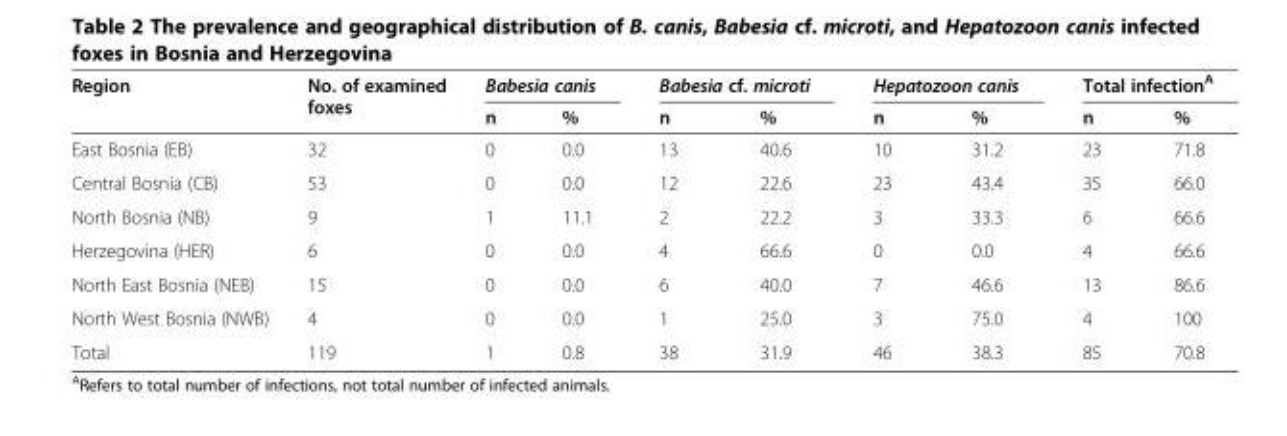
<table><thead><tr><td rowspan="2">Region</td><td rowspan="2">No. of examined foxes</td><td colspan="2">Babesia canis</td><td colspan="2">Babesia cf. microti</td><td colspan="2">Hepatozoon canis</td><td colspan="2">Total infection<sup>A</sup></td></tr><tr><td>n</td><td>%</td><td>n</td><td>%</td><td>n</td><td>%</td><td>n</td><td>%</td></tr></thead><tbody><tr><td>East Bosnia (EB)</td><td>32</td><td>0</td><td>0.0</td><td>13</td><td>40.6</td><td>10</td><td>31.2</td><td>23</td><td>71.8</td></tr><tr><td>Central Bosnia (CB)</td><td>53</td><td>0</td><td>0.0</td><td>12</td><td>22.6</td><td>23</td><td>43.4</td><td>35</td><td>66.0</td></tr><tr><td>North Bosnia (NB)</td><td>9</td><td>1</td><td>11.1</td><td>2</td><td>22.2</td><td>3</td><td>33.3</td><td>6</td><td>66.6</td></tr><tr><td>Herzegovina (HER)</td><td>6</td><td>0</td><td>0.0</td><td>4</td><td>66.6</td><td>0</td><td>0.0</td><td>4</td><td>66.6</td></tr><tr><td>North East Bosnia (NEB)</td><td>15</td><td>0</td><td>0.0</td><td>6</td><td>40.0</td><td>7</td><td>46.6</td><td>13</td><td>86.6</td></tr><tr><td>North West Bosnia (NWB)</td><td>4</td><td>0</td><td>0.0</td><td>1</td><td>25.0</td><td>3</td><td>75.0</td><td>4</td><td>100</td></tr><tr><td>Total</td><td>119</td><td>1</td><td>0.8</td><td>38</td><td>31.9</td><td>46</td><td>38.3</td><td>85</td><td>70.8</td></tr></tbody></table>